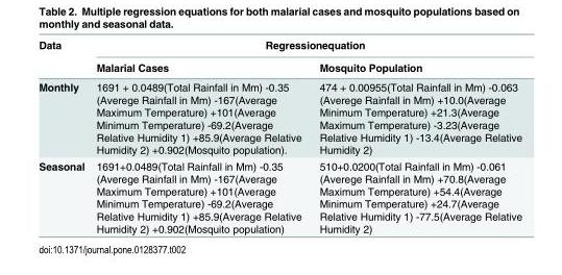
<table><thead><tr><td rowspan="2">Data</td><td colspan="2">Regressionequation</td></tr><tr><td>Malarial Cases</td><td>Mosquito Population</td></tr></thead><tbody><tr><td>Monthly</td><td>1691 + 0.0489(Total Rainfall in Mm) -0.35 (Averege Rainfall in Mm) -167(Average Maximum Temperature) +101(Average Minimum Temperature) -69.2(Average Relative Humidity 1) +85.9(Average Relative Humidity 2) +0.902(Mosquito population).</td><td>474 + 0.00955(Total Rainfall in Mm) -0.063 (Averege Rainfall in Mm) +10.0(Average Minimum Temperature) +21.3(Average Maximum Temperature) -3.23(Average Relative Humidity 1) -13.4(Average Relative Humidity 2)</td></tr><tr><td>Seasonal</td><td>1691+0.0489(Total Rainfall in Mm) -0.35 (Averege Rainfall in Mm) -167(Average Maximum Temperature) +101(Average Minimum Temperature) -69.2(Average Relative Humidity 1) +85.9(Average Relative Humidity 2) +0.902(Mosquito population)</td><td>510+0.0200(Total Rainfall in Mm) -0.061 (Averege Rainfall in Mm) +70.8(Average Maximum Temperature) +54.4(Average Minimum Temperature) +24.7(Average Relative Humidity 1) -77.5(Average Relative Humidity 2)</td></tr></tbody></table>